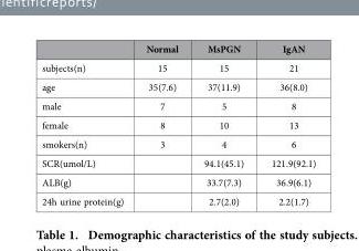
<table><thead><tr><td></td><td>Normal</td><td>MsPGN</td><td>IgAN</td></tr></thead><tbody><tr><td>subjects(n)</td><td>15</td><td>15</td><td>21</td></tr><tr><td>age</td><td>35(7.6)</td><td>37(11.9)</td><td>36(8.0)</td></tr><tr><td>male</td><td>7</td><td>5</td><td>8</td></tr><tr><td>female</td><td>8</td><td>10</td><td>13</td></tr><tr><td>smokers(n)</td><td>3</td><td>4</td><td>6</td></tr><tr><td>SCR(umol/L)</td><td></td><td>94.1(45.1)</td><td>121.9(92.1)</td></tr><tr><td>ALB(g)</td><td></td><td>33.7(7.3)</td><td>36.9(6.1)</td></tr><tr><td>24h urine protein(g)</td><td></td><td>2.7(2.0)</td><td>2.2(1.7)</td></tr></tbody></table>